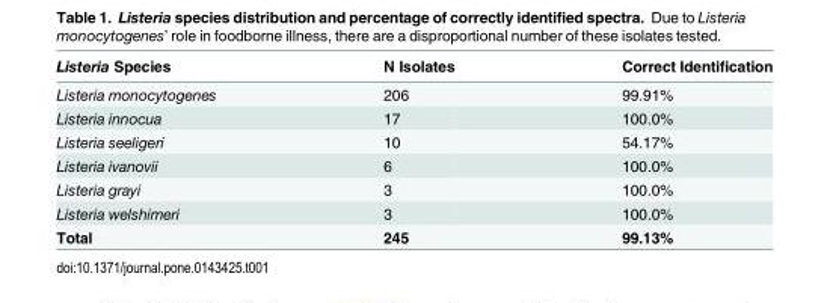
<table><thead><tr><td>Listeria Species</td><td>N Isolates</td><td>Correct Identification</td></tr></thead><tbody><tr><td>Listeria monocytogenes</td><td>206</td><td>99.91%</td></tr><tr><td>Listeria innocua</td><td>17</td><td>100.0%</td></tr><tr><td>Listeria seeligeri</td><td>10</td><td>54.17%</td></tr><tr><td>Listeria ivanovii</td><td>6</td><td>100.0%</td></tr><tr><td>Listeria grayi</td><td>3</td><td>100.0%</td></tr><tr><td>Listeria welshimeri</td><td>3</td><td>100.0%</td></tr><tr><td>Total</td><td>245</td><td>99.13%</td></tr></tbody></table>